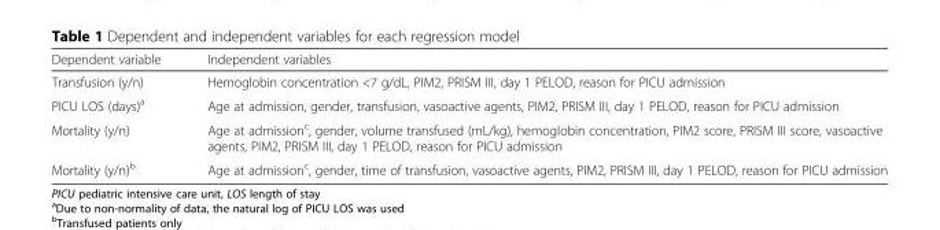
<table><thead><tr><td>Dependent variable</td><td>Independent variables</td></tr></thead><tbody><tr><td>Transfusion (y/n)</td><td>Hemoglobin concentration &lt;7 g/dL, PIM2, PRISM III, day 1 PELOD, reason for PICU admission</td></tr><tr><td>PICU LOS (days)<sup>a</sup></td><td>Age at admission, gender, transfusion, vasoactive agents, PIM2, PRISM III, day 1 PELOD, reason for PICU admission</td></tr><tr><td>Mortality (y/n)</td><td>Age at admission<sup>c</sup>, gender, volume transfused (mL/kg), hemoglobin concentration, PIM2 score, PRISM III score, vasoactive agents, PIM2, PRISM III, day 1 PELOD, reason for PICU admission</td></tr><tr><td>Mortality (y/n)<sup>b</sup></td><td>Age at admission<sup>c</sup>, gender, time of transfusion, vasoactive agents, PIM2, PRISM III, day 1 PELOD, reason for PICU admission</td></tr></tbody></table>